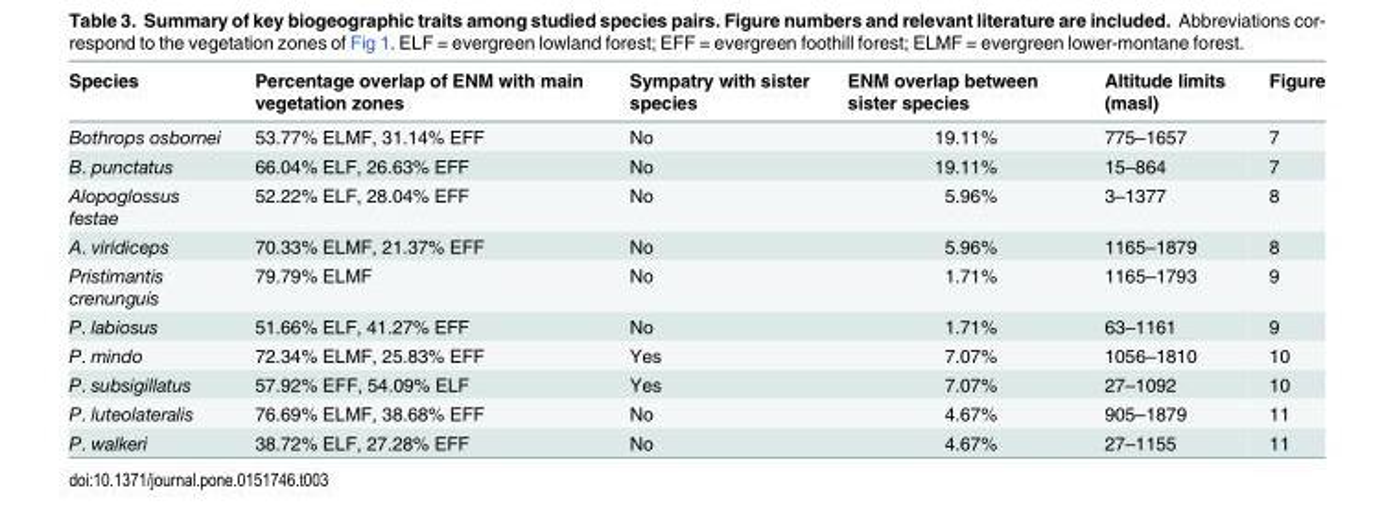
<table><thead><tr><td>Species</td><td>Percentage overlap of ENM with main vegetation zones</td><td>Sympatry with sister species</td><td>ENM overlap between sister species</td><td>Altitude limits (masl)</td><td>Figure</td></tr></thead><tbody><tr><td>Bothrops osbornei</td><td>53.77% ELMF, 31.14% EFF</td><td>No</td><td>19.11%</td><td>775–1657</td><td>7</td></tr><tr><td>B. punctatus</td><td>66.04% ELF, 26.63% EFF</td><td>No</td><td>19.11%</td><td>15–864</td><td>7</td></tr><tr><td>Alopoglossus festae</td><td>52.22% ELF, 28.04% EFF</td><td>No</td><td>5.96%</td><td>3–1377</td><td>8</td></tr><tr><td>A. viridiceps</td><td>70.33% ELMF, 21.37% EFF</td><td>No</td><td>5.96%</td><td>1165–1879</td><td>8</td></tr><tr><td>Pristimantis crenunguis</td><td>79.79% ELMF</td><td>No</td><td>1.71%</td><td>1165–1793</td><td>9</td></tr><tr><td>P. labiosus</td><td>51.66% ELF, 41.27% EFF</td><td>No</td><td>1.71%</td><td>63–1161</td><td>9</td></tr><tr><td>P. mindo</td><td>72.34% ELMF, 25.83% EFF</td><td>Yes</td><td>7.07%</td><td>1056–1810</td><td>10</td></tr><tr><td>P. subsigillatus</td><td>57.92% EFF, 54.09% ELF</td><td>Yes</td><td>7.07%</td><td>27–1092</td><td>10</td></tr><tr><td>P. luteolateralis</td><td>76.69% ELMF, 38.68% EFF</td><td>No</td><td>4.67%</td><td>905–1879</td><td>11</td></tr><tr><td>P. walkeri</td><td>38.72% ELF, 27.28% EFF</td><td>No</td><td>4.67%</td><td>27–1155</td><td>11</td></tr></tbody></table>